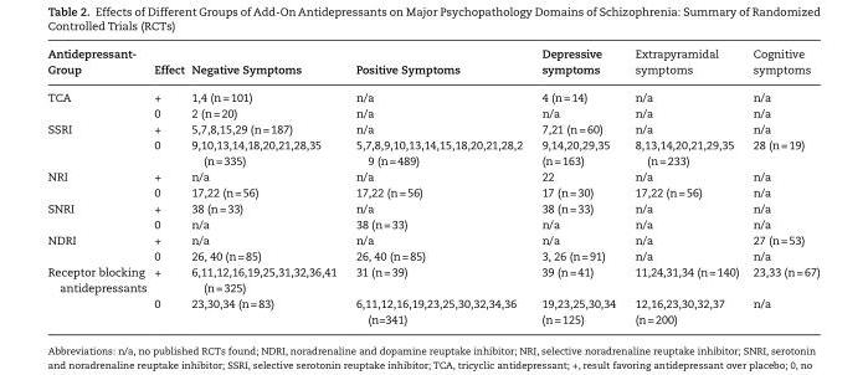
<table><thead><tr><td>Antidepressant- Group</td><td>Effect</td><td>Negative Symptoms</td><td>Positive Symptoms</td><td>Depressive symptoms</td><td>Extrapyramidal symptoms</td><td>Cognitive symptoms</td></tr></thead><tbody><tr><td rowspan="2">TCA</td><td>+</td><td>1,4 (n = 101)</td><td>n/a</td><td>4 (n = 14)</td><td>n/a</td><td>n/a</td></tr><tr><td>0</td><td>2 (n = 20)</td><td>n/a</td><td>n/a</td><td>n/a</td><td>n/a</td></tr><tr><td rowspan="2">SSRI</td><td>+</td><td>5,7,8,15,29 (n = 187)</td><td>n/a</td><td>7,21 (n = 60)</td><td>n/a</td><td>n/a</td></tr><tr><td>0</td><td>9,10,13,14,18,20,21,28,35 (n = 335)</td><td>5,7,8,9,10,13,14,15,18,20,21,28,2 9 (n = 489)</td><td>9,14,20,29,35 (n = 163)</td><td>8,13,14,20,21,29,35 (n = 233)</td><td>28 (n = 19)</td></tr><tr><td rowspan="2">NRI</td><td>+</td><td>n/a</td><td>n/a</td><td>22</td><td>n/a</td><td>n/a</td></tr><tr><td>0</td><td>17,22 (n = 56)</td><td>17,22 (n = 56)</td><td>17 (n = 30)</td><td>17,22 (n = 56)</td><td>n/a</td></tr><tr><td rowspan="2">SNRI</td><td>+</td><td>38 (n = 33)</td><td>n/a</td><td>38 (n = 33)</td><td>n/a</td><td>n/a</td></tr><tr><td>0</td><td>n/a</td><td>38 (n = 33)</td><td>n/a</td><td>n/a</td><td>n/a</td></tr><tr><td rowspan="2">NDRI</td><td>+</td><td>n/a</td><td>n/a</td><td>n/a</td><td>n/a</td><td>27 (n = 53)</td></tr><tr><td>0</td><td>26, 40 (n = 85)</td><td>26, 40 (n = 85)</td><td>3, 26 (n = 91)</td><td>n/a</td><td>n/a</td></tr><tr><td rowspan="2">Receptor blocking antidepressants</td><td>+</td><td>6,11,12,16,19,25,31,32,36,41 (n = 325)</td><td>31 (n = 39)</td><td>39 (n = 41)</td><td>11,24,31,34 (n = 140)</td><td>23,33 (n = 67)</td></tr><tr><td>0</td><td>23,30,34 (n = 83)</td><td>6,11,12,16,19,23,25,30,32,34,36 (n=341)</td><td>19,23,25,30,34 (n = 125)</td><td>12,16,23,30,32,37 (n = 200)</td><td>n/a</td></tr></tbody></table>